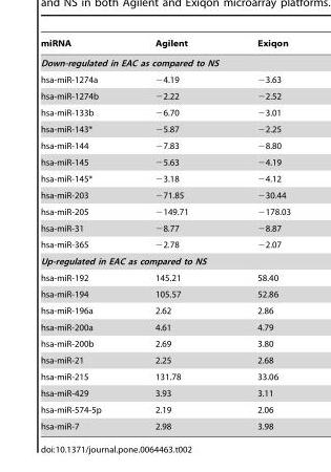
<table><thead><tr><td>miRNA</td><td>Agilent</td><td>Exiqon</td></tr></thead><tbody><tr><td colspan="3">Down-regulated in EAC as compared to NS</td></tr><tr><td>hsa-miR-1274a</td><td>−4.19</td><td>−3.63</td></tr><tr><td>hsa-miR-1274b</td><td>−2.22</td><td>−2.52</td></tr><tr><td>hsa-miR-133b</td><td>−6.70</td><td>−3.01</td></tr><tr><td>hsa-miR-143*</td><td>−5.87</td><td>−2.25</td></tr><tr><td>hsa-miR-144</td><td>−7.83</td><td>−8.80</td></tr><tr><td>hsa-miR-145</td><td>−5.63</td><td>−4.19</td></tr><tr><td>hsa-miR-145*</td><td>−3.18</td><td>−4.12</td></tr><tr><td>hsa-miR-203</td><td>−71.85</td><td>−30.44</td></tr><tr><td>hsa-miR-205</td><td>−149.71</td><td>−178.03</td></tr><tr><td>hsa-miR-31</td><td>−8.77</td><td>−8.87</td></tr><tr><td>hsa-miR-365</td><td>−2.78</td><td>−2.07</td></tr><tr><td colspan="3">Up-regulated in EAC as compared to NS</td></tr><tr><td>hsa-miR-192</td><td>145.21</td><td>58.40</td></tr><tr><td>hsa-miR-194</td><td>105.57</td><td>52.86</td></tr><tr><td>hsa-miR-196a</td><td>2.62</td><td>2.86</td></tr><tr><td>hsa-miR-200a</td><td>4.61</td><td>4.79</td></tr><tr><td>hsa-miR-200b</td><td>2.69</td><td>3.80</td></tr><tr><td>hsa-miR-21</td><td>2.25</td><td>2.68</td></tr><tr><td>hsa-miR-215</td><td>131.78</td><td>33.06</td></tr><tr><td>hsa-miR-429</td><td>3.93</td><td>3.11</td></tr><tr><td>hsa-miR-574-5p</td><td>2.19</td><td>2.06</td></tr><tr><td>hsa-miR-7</td><td>2.98</td><td>3.98</td></tr></tbody></table>